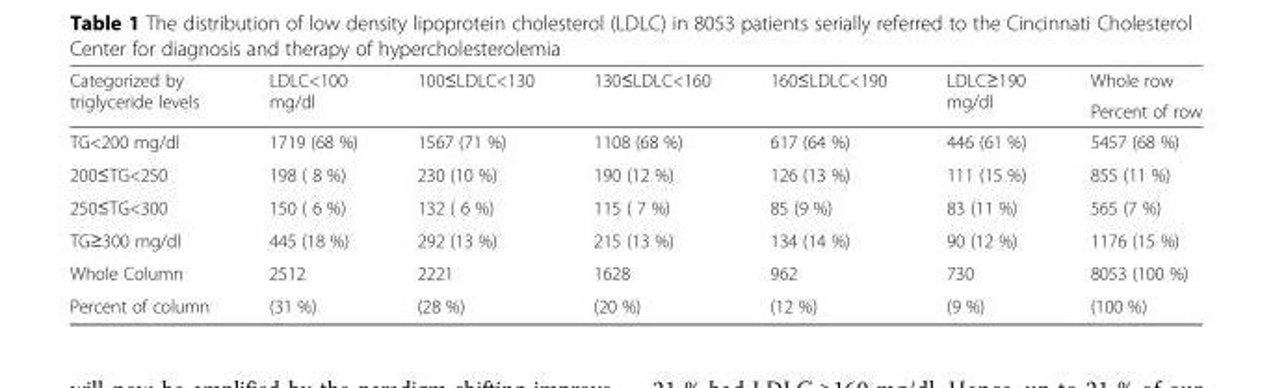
<table><thead><tr><td rowspan="2">Categorized by triglyceride levels</td><td rowspan="2">LDLC&lt;100 mg/dl</td><td rowspan="2">100≤LDLC&lt;130</td><td rowspan="2">130≤LDLC&lt;160</td><td rowspan="2">160≤LDLC&lt;190</td><td rowspan="2">LDLC≥190 mg/dl</td><td rowspan="2">Whole row Percent of row</td></tr><tr></tr></thead><tbody><tr><td>TG&lt;200 mg/dl</td><td>1719 (68 %)</td><td>1567 (71 %)</td><td>1108 (68 %)</td><td>617 (64 %)</td><td>446 (61 %)</td><td>5457 (68 %)</td></tr><tr><td>200≤TG&lt;250</td><td>198 ( 8 %)</td><td>230 (10 %)</td><td>190 (12 %)</td><td>126 (13 %)</td><td>111 (15 %)</td><td>855 (11 %)</td></tr><tr><td>250≤TG&lt;300</td><td>150 ( 6 %)</td><td>132 ( 6 %)</td><td>115 ( 7 %)</td><td>85 (9 %)</td><td>83 (11 %)</td><td>565 (7 %)</td></tr><tr><td>TG≥300 mg/dl</td><td>445 (18 %)</td><td>292 (13 %)</td><td>215 (13 %)</td><td>134 (14 %)</td><td>90 (12 %)</td><td>1176 (15 %)</td></tr><tr><td>Whole Column</td><td>2512</td><td>2221</td><td>1628</td><td>962</td><td>730</td><td>8053 (100 %)</td></tr><tr><td>Percent of column</td><td>(31 %)</td><td>(28 %)</td><td>(20 %)</td><td>(12 %)</td><td>(9 %)</td><td>(100 %)</td></tr></tbody></table>